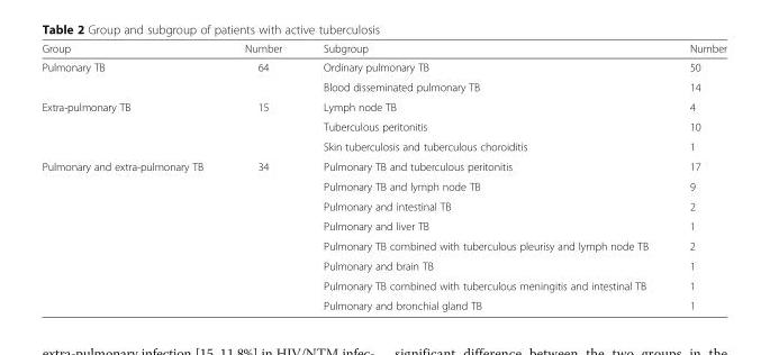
<table><thead><tr><td>Group</td><td>Number</td><td>Subgroup</td><td>Number</td></tr></thead><tbody><tr><td rowspan="2">Pulmonary TB</td><td rowspan="2">64</td><td>Ordinary pulmonary TB</td><td>50</td></tr><tr><td>Blood disseminated pulmonary TB</td><td>14</td></tr><tr><td rowspan="3">Extra-pulmonary TB</td><td rowspan="3">15</td><td>Lymph node TB</td><td>4</td></tr><tr><td>Tuberculous peritonitis</td><td>10</td></tr><tr><td>Skin tuberculosis and tuberculous choroiditis</td><td>1</td></tr><tr><td rowspan="8">Pulmonary and extra-pulmonary TB</td><td rowspan="8">34</td><td>Pulmonary TB and tuberculous peritonitis</td><td>17</td></tr><tr><td>Pulmonary TB and lymph node TB</td><td>9</td></tr><tr><td>Pulmonary and intestinal TB</td><td>2</td></tr><tr><td>Pulmonary and liver TB</td><td>1</td></tr><tr><td>Pulmonary TB combined with tuberculous pleurisy and lymph node TB</td><td>2</td></tr><tr><td>Pulmonary and brain TB</td><td>1</td></tr><tr><td>Pulmonary TB combined with tuberculous meningitis and intestinal TB</td><td>1</td></tr><tr><td>Pulmonary and bronchial gland TB</td><td>1</td></tr></tbody></table>